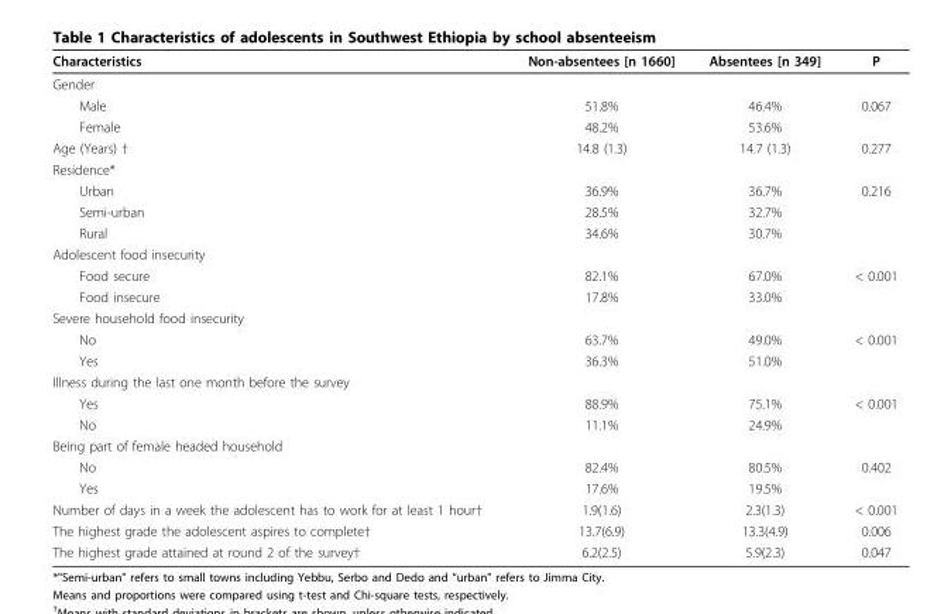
<table><thead><tr><td>Characteristics</td><td>Non-absentees [n 1660]</td><td>Absentees [n 349]</td><td>P</td></tr></thead><tbody><tr><td colspan="4">Gender</td></tr><tr><td>Male</td><td>51.8%</td><td>46.4%</td><td>0.067</td></tr><tr><td>Female</td><td>48.2%</td><td>53.6%</td><td></td></tr><tr><td>Age (Years) †</td><td>14.8 (1.3)</td><td>14.7 (1.3)</td><td>0.277</td></tr><tr><td colspan="4">Residence*</td></tr><tr><td>Urban</td><td>36.9%</td><td>36.7%</td><td>0.216</td></tr><tr><td>Semi-urban</td><td>28.5%</td><td>32.7%</td><td></td></tr><tr><td>Rural</td><td>34.6%</td><td>30.7%</td><td></td></tr><tr><td colspan="4">Adolescent food insecurity</td></tr><tr><td>Food secure</td><td>82.1%</td><td>67.0%</td><td>&lt; 0.001</td></tr><tr><td>Food insecure</td><td>17.8%</td><td>33.0%</td><td></td></tr><tr><td colspan="4">Severe household food insecurity</td></tr><tr><td>No</td><td>63.7%</td><td>49.0%</td><td>&lt; 0.001</td></tr><tr><td>Yes</td><td>36.3%</td><td>51.0%</td><td></td></tr><tr><td colspan="4">Illness during the last one month before the survey</td></tr><tr><td>Yes</td><td>88.9%</td><td>75.1%</td><td>&lt; 0.001</td></tr><tr><td>No</td><td>11.1%</td><td>24.9%</td><td></td></tr><tr><td colspan="4">Being part of female headed household</td></tr><tr><td>No</td><td>82.4%</td><td>80.5%</td><td>0.402</td></tr><tr><td>Yes</td><td>17.6%</td><td>19.5%</td><td></td></tr><tr><td>Number of days in a week the adolescent has to work for at least 1 hour†</td><td>1.9(1.6)</td><td>2.3(1.3)</td><td>&lt; 0.001</td></tr><tr><td>The highest grade the adolescent aspires to complete†</td><td>13.7(6.9)</td><td>13.3(4.9)</td><td>0.006</td></tr><tr><td>The highest grade attained at round 2 of the survey†</td><td>6.2(2.5)</td><td>5.9(2.3)</td><td>0.047</td></tr></tbody></table>